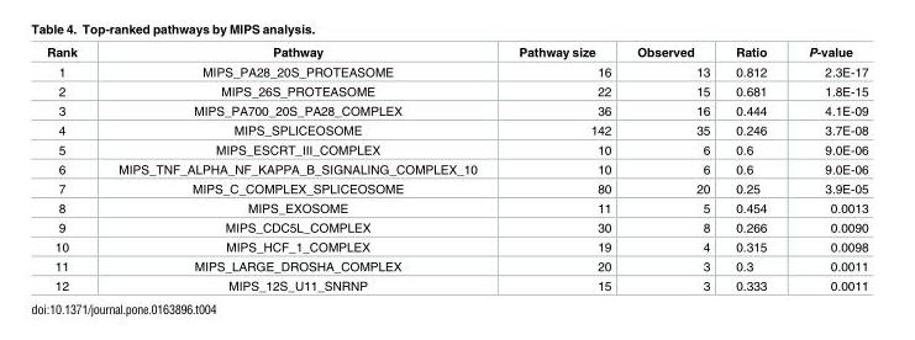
<table><thead><tr><td>Rank</td><td>Pathway</td><td>Pathway size</td><td>Observed</td><td>Ratio</td><td>P-value</td></tr></thead><tbody><tr><td>1</td><td>MIPS_PA28_20S_PROTEASOME</td><td>16</td><td>13</td><td>0.812</td><td>2.3E-17</td></tr><tr><td>2</td><td>MIPS_26S_PROTEASOME</td><td>22</td><td>15</td><td>0.681</td><td>1.8E-15</td></tr><tr><td>3</td><td>MIPS_PA700_20S_PA28_COMPLEX</td><td>36</td><td>16</td><td>0.444</td><td>4.1E-09</td></tr><tr><td>4</td><td>MIPS_SPLICEOSOME</td><td>142</td><td>35</td><td>0.246</td><td>3.7E-08</td></tr><tr><td>5</td><td>MIPS_ESCRT_III_COMPLEX</td><td>10</td><td>6</td><td>0.6</td><td>9.0E-06</td></tr><tr><td>6</td><td>MIPS_TNF_ALPHA_NF_KAPPA_B_SIGNALING_COMPLEX_10</td><td>10</td><td>6</td><td>0.6</td><td>9.0E-06</td></tr><tr><td>7</td><td>MIPS_C_COMPLEX_SPLICEOSOME</td><td>80</td><td>20</td><td>0.25</td><td>3.9E-05</td></tr><tr><td>8</td><td>MIPS_EXOSOME</td><td>11</td><td>5</td><td>0.454</td><td>0.0013</td></tr><tr><td>9</td><td>MIPS_CDC5L_COMPLEX</td><td>30</td><td>8</td><td>0.266</td><td>0.0090</td></tr><tr><td>10</td><td>MIPS_HCF_1_COMPLEX</td><td>19</td><td>4</td><td>0.315</td><td>0.0098</td></tr><tr><td>11</td><td>MIPS_LARGE_DROSHA_COMPLEX</td><td>20</td><td>3</td><td>0.3</td><td>0.0011</td></tr><tr><td>12</td><td>MIPS_12S_U11_SNRNP</td><td>15</td><td>3</td><td>0.333</td><td>0.0011</td></tr></tbody></table>